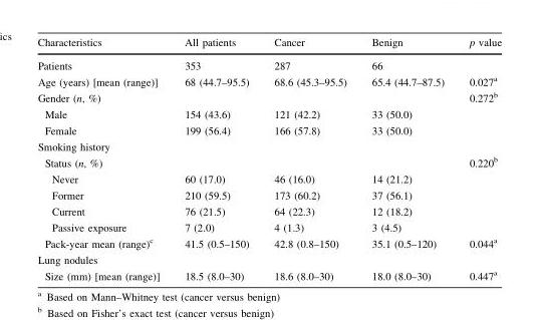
<table><thead><tr><td>Characteristics</td><td>All patients</td><td>Cancer</td><td>Benign</td><td>p value</td></tr></thead><tbody><tr><td>Patients</td><td>353</td><td>287</td><td>66</td><td></td></tr><tr><td>Age (years) [mean (range)]</td><td>68 (44.7–95.5)</td><td>68.6 (45.3–95.5)</td><td>65.4 (44.7–87.5)</td><td>0.027<sup>a</sup></td></tr><tr><td>Gender (n, %)</td><td></td><td></td><td></td><td>0.272<sup>b</sup></td></tr><tr><td>Male</td><td>154 (43.6)</td><td>121 (42.2)</td><td>33 (50.0)</td><td></td></tr><tr><td>Female</td><td>199 (56.4)</td><td>166 (57.8)</td><td>33 (50.0)</td><td></td></tr><tr><td colspan="5">Smoking history</td></tr><tr><td>Status (n, %)</td><td></td><td></td><td></td><td>0.220<sup>b</sup></td></tr><tr><td>Never</td><td>60 (17.0)</td><td>46 (16.0)</td><td>14 (21.2)</td><td></td></tr><tr><td>Former</td><td>210 (59.5)</td><td>173 (60.2)</td><td>37 (56.1)</td><td></td></tr><tr><td>Current</td><td>76 (21.5)</td><td>64 (22.3)</td><td>12 (18.2)</td><td></td></tr><tr><td>Passive exposure</td><td>7 (2.0)</td><td>4 (1.3)</td><td>3 (4.5)</td><td></td></tr><tr><td>Pack-year mean (range)<sup>c</sup></td><td>41.5 (0.5–150)</td><td>42.8 (0.8–150)</td><td>35.1 (0.5–120)</td><td>0.044<sup>a</sup></td></tr><tr><td colspan="5">Lung nodules</td></tr><tr><td>Size (mm) [mean (range)]</td><td>18.5 (8.0–30)</td><td>18.6 (8.0–30)</td><td>18.0 (8.0–30)</td><td>0.447<sup>a</sup></td></tr></tbody></table>